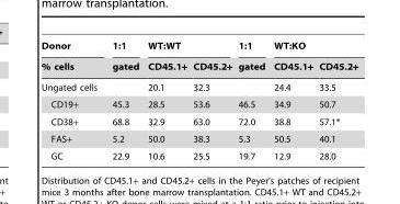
<table><thead><tr><td rowspan="2">Donor % cells</td><td rowspan="2">1:1 gated</td><td colspan="2">WT:WT</td><td rowspan="2">1:1 gated</td><td colspan="2">WT:KO</td></tr><tr><td>CD45.1+</td><td>CD45.2+</td><td>CD45.1+</td><td>CD45.2+</td></tr></thead><tbody><tr><td>Ungated cells</td><td></td><td>20.1</td><td>32.3</td><td></td><td>24.4</td><td>33.5</td></tr><tr><td>CD19+</td><td>45.3</td><td>28.5</td><td>53.6</td><td>46.5</td><td>34.9</td><td>50.7</td></tr><tr><td>CD38+</td><td>68.8</td><td>32.9</td><td>63.0</td><td>72.0</td><td>38.8</td><td>57.1*</td></tr><tr><td>FAS+</td><td>5.2</td><td>50.0</td><td>38.3</td><td>5.3</td><td>50.5</td><td>40.1</td></tr><tr><td>GC</td><td>22.9</td><td>10.6</td><td>25.5</td><td>19.7</td><td>12.9</td><td>28.0</td></tr></tbody></table>